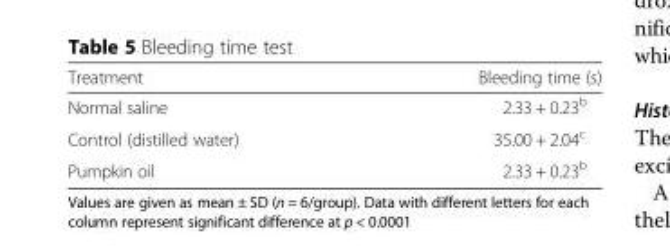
<table><thead><tr><td>Treatment</td><td>Bleeding time (s)</td></tr></thead><tbody><tr><td>Normal saline</td><td>2.33 + 0.23b</td></tr><tr><td>Control (distilled water)</td><td>35.00 + 2.04c</td></tr><tr><td>Pumpkin oil</td><td>2.33 + 0.23b</td></tr></tbody></table>